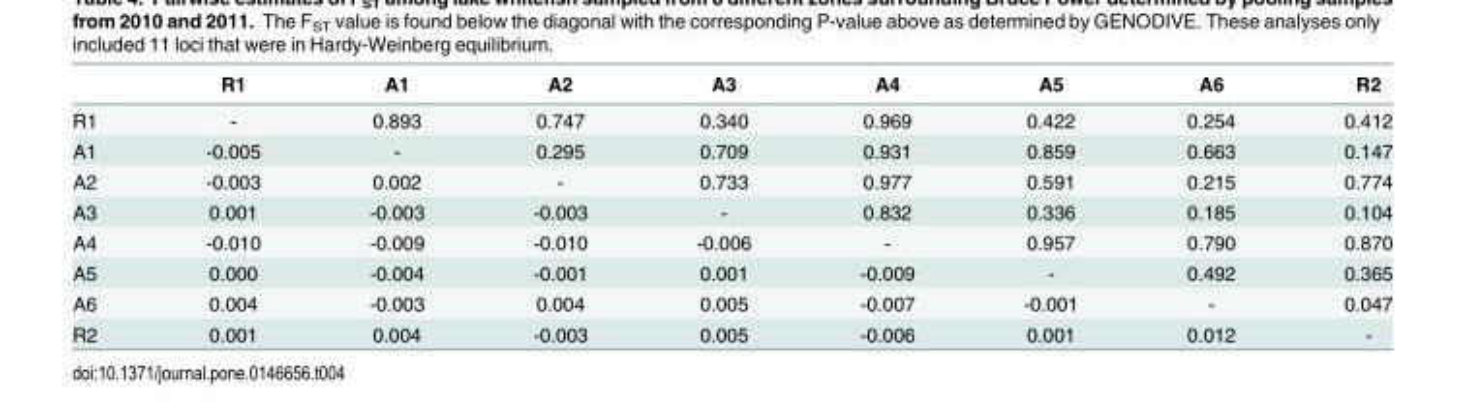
<table><thead><tr><td></td><td>R1</td><td>A1</td><td>A2</td><td>A3</td><td>A4</td><td>A5</td><td>A6</td><td>R2</td></tr></thead><tbody><tr><td>R1</td><td>-</td><td>0.893</td><td>0.747</td><td>0.340</td><td>0.969</td><td>0.422</td><td>0.254</td><td>0.412</td></tr><tr><td>A1</td><td>-0.005</td><td>-</td><td>0.295</td><td>0.709</td><td>0.931</td><td>0.859</td><td>0.663</td><td>0.147</td></tr><tr><td>A2</td><td>-0.003</td><td>0.002</td><td>-</td><td>0.733</td><td>0.977</td><td>0.591</td><td>0.215</td><td>0.774</td></tr><tr><td>A3</td><td>0.001</td><td>-0.003</td><td>-0.003</td><td>-</td><td>0.832</td><td>0.336</td><td>0.185</td><td>0.104</td></tr><tr><td>A4</td><td>-0.010</td><td>-0.009</td><td>-0.010</td><td>-0.006</td><td>-</td><td>0.957</td><td>0.790</td><td>0.870</td></tr><tr><td>A5</td><td>0.000</td><td>-0.004</td><td>-0.001</td><td>0.001</td><td>-0.009</td><td>-</td><td>0.492</td><td>0.365</td></tr><tr><td>A6</td><td>0.004</td><td>-0.003</td><td>0.004</td><td>0.005</td><td>-0.007</td><td>-0.001</td><td>-</td><td>0.047</td></tr><tr><td>R2</td><td>0.001</td><td>0.004</td><td>-0.003</td><td>0.005</td><td>-0.006</td><td>0.001</td><td>0.012</td><td>-</td></tr></tbody></table>